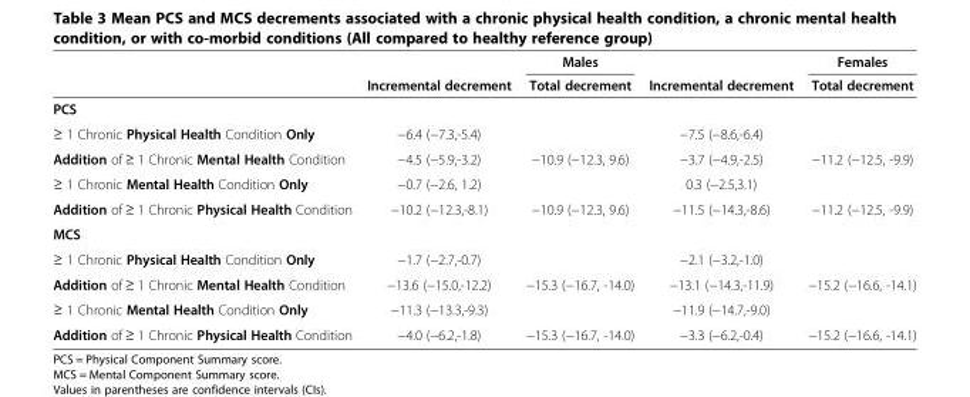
<table><thead><tr><td rowspan="2"></td><td rowspan="2">Incremental decrement</td><td rowspan="2">Males Total decrement</td><td rowspan="2">Incremental decrement</td><td rowspan="2">Females Total decrement</td></tr><tr></tr></thead><tbody><tr><td colspan="5">PCS</td></tr><tr><td>≥ 1 Chronic Physical Health Condition Only</td><td>−6.4 (−7.3,-5.4)</td><td></td><td>−7.5 (−8.6,-6.4)</td><td></td></tr><tr><td>Addition of ≥ 1 Chronic Mental Health Condition</td><td>−4.5 (−5.9,-3.2)</td><td>−10.9 (−12.3, 9.6)</td><td>−3.7 (−4.9,-2.5)</td><td>−11.2 (−12.5, -9.9)</td></tr><tr><td>≥ 1 Chronic Mental Health Condition Only</td><td>−0.7 (−2.6, 1.2)</td><td></td><td>0.3 (−2.5,3.1)</td><td></td></tr><tr><td>Addition of ≥ 1 Chronic Physical Health Condition</td><td>−10.2 (−12.3,-8.1)</td><td>−10.9 (−12.3, 9.6)</td><td>−11.5 (−14.3,-8.6)</td><td>−11.2 (−12.5, -9.9)</td></tr><tr><td colspan="5">MCS</td></tr><tr><td>≥ 1 Chronic Physical Health Condition Only</td><td>−1.7 (−2.7,-0.7)</td><td></td><td>−2.1 (−3.2,-1.0)</td><td></td></tr><tr><td>Addition of ≥ 1 Chronic Mental Health Condition</td><td>−13.6 (−15.0,-12.2)</td><td>−15.3 (−16.7, -14.0)</td><td>−13.1 (−14.3,-11.9)</td><td>−15.2 (−16.6, -14.1)</td></tr><tr><td>≥ 1 Chronic Mental Health Condition Only</td><td>−11.3 (−13.3,-9.3)</td><td></td><td>−11.9 (−14.7,-9.0)</td><td></td></tr><tr><td>Addition of ≥ 1 Chronic Physical Health Condition</td><td>−4.0 (−6.2,-1.8)</td><td>−15.3 (−16.7, -14.0)</td><td>−3.3 (−6.2,-0.4)</td><td>−15.2 (−16.6, -14.1)</td></tr></tbody></table>